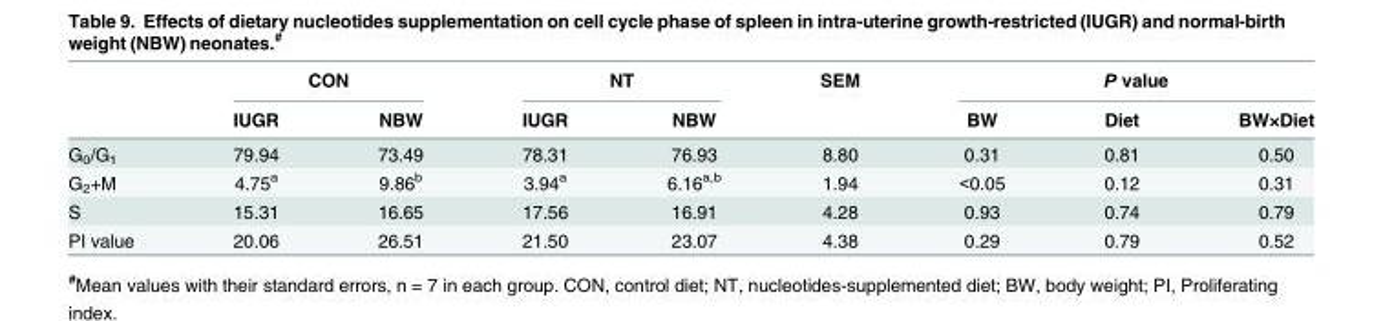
<table><thead><tr><td rowspan="2"></td><td colspan="2">CON</td><td colspan="2">NT</td><td rowspan="2">SEM</td><td colspan="3">P value</td></tr><tr><td>IUGR</td><td>NBW</td><td>IUGR</td><td>NBW</td><td>BW</td><td>Diet</td><td>BW×Diet</td></tr></thead><tbody><tr><td>G<sub>0</sub>/G<sub>1</sub></td><td>79.94</td><td>73.49</td><td>78.31</td><td>76.93</td><td>8.80</td><td>0.31</td><td>0.81</td><td>0.50</td></tr><tr><td>G<sub>2</sub>+M</td><td>4.75<sup>a</sup></td><td>9.86<sup>b</sup></td><td>3.94<sup>a</sup></td><td>6.16<sup>a,b</sup></td><td>1.94</td><td>&lt;0.05</td><td>0.12</td><td>0.31</td></tr><tr><td>S</td><td>15.31</td><td>16.65</td><td>17.56</td><td>16.91</td><td>4.28</td><td>0.93</td><td>0.74</td><td>0.79</td></tr><tr><td>PI value</td><td>20.06</td><td>26.51</td><td>21.50</td><td>23.07</td><td>4.38</td><td>0.29</td><td>0.79</td><td>0.52</td></tr></tbody></table>